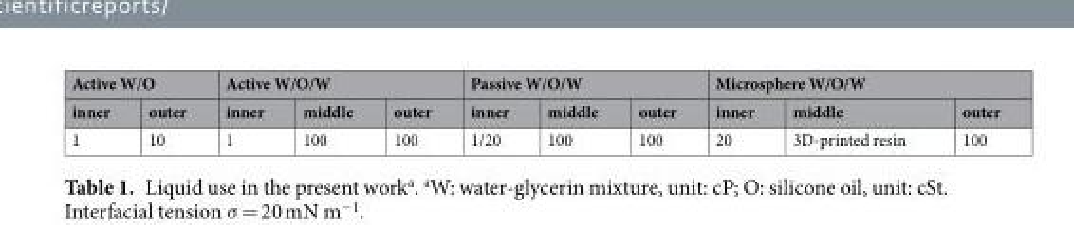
<table><thead><tr><td colspan="2">Active W/O</td><td colspan="3">Active W/O/W</td><td colspan="3">Passive W/O/W</td><td colspan="3">Microsphere W/O/W</td></tr><tr><td>inner</td><td>outer</td><td>inner</td><td>middle</td><td>outer</td><td>inner</td><td>middle</td><td>outer</td><td>inner</td><td>middle</td><td>outer</td></tr></thead><tbody><tr><td>1</td><td>10</td><td>1</td><td>100</td><td>100</td><td>1/20</td><td>100</td><td>100</td><td>20</td><td>3D-printed resin</td><td>100</td></tr></tbody></table>